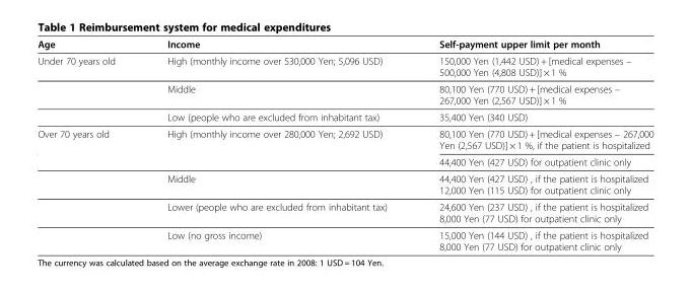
<table><thead><tr><td>Age</td><td>Income</td><td>Self-payment upper limit per month</td></tr></thead><tbody><tr><td rowspan="3">Under 70 years old</td><td>High (monthly income over 530,000 Yen; 5,096 USD)</td><td>150,000 Yen (1,442 USD) + [medical expenses – 500,000 Yen (4,808 USD)] × 1 %</td></tr><tr><td>Middle</td><td>80,100 Yen (770 USD) + [medical expenses – 267,000 Yen (2,567 USD)] × 1 %</td></tr><tr><td>Low (people who are excluded from inhabitant tax)</td><td>35,400 Yen (340 USD)</td></tr><tr><td rowspan="6">Over 70 years old</td><td>High (monthly income over 280,000 Yen; 2,692 USD)</td><td>80,100 Yen (770 USD) + [medical expenses – 267,000 Yen (2,567 USD)] × 1 %, if the patient is hospitalized</td></tr><tr><td></td><td>44,400 Yen (427 USD) for outpatient clinic only</td></tr><tr><td>Middle</td><td>44,400 Yen (427 USD) , if the patient is hospitalized</td></tr><tr><td></td><td>12,000 Yen (115 USD) for outpatient clinic only</td></tr><tr><td>Lower (people who are excluded from inhabitant tax)</td><td>24,600 Yen (237 USD) , if the patient is hospitalized 8,000 Yen (77 USD) for outpatient clinic only</td></tr><tr><td>Low (no gross income)</td><td>15,000 Yen (144 USD) , if the patient is hospitalized 8,000 Yen (77 USD) for outpatient clinic only</td></tr></tbody></table>